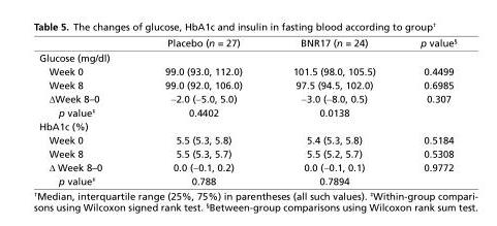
<table><thead><tr><td></td><td>Placebo (n = 27)</td><td>BNR17 (n = 24)</td><td>p value<sup>§</sup></td></tr></thead><tbody><tr><td colspan="4">Glucose (mg/dl)</td></tr><tr><td>Week 0</td><td>99.0 (93.0, 112.0)</td><td>101.5 (98.0, 105.5)</td><td>0.4499</td></tr><tr><td>Week 8</td><td>99.0 (92.0, 106.0)</td><td>97.5 (94.5, 102.0)</td><td>0.6985</td></tr><tr><td>ΔWeek 8–0</td><td>−2.0 (−5.0, 5.0)</td><td>−3.0 (−8.0, 0.5)</td><td>0.307</td></tr><tr><td>p value<sup>‡</sup></td><td>0.4402</td><td>0.0138</td><td></td></tr><tr><td colspan="4">HbA1c (%)</td></tr><tr><td>Week 0</td><td>5.5 (5.3, 5.8)</td><td>5.4 (5.3, 5.8)</td><td>0.5184</td></tr><tr><td>Week 8</td><td>5.5 (5.3, 5.7)</td><td>5.5 (5.2, 5.7)</td><td>0.5308</td></tr><tr><td>Δ Week 8–0</td><td>0.0 (−0.1, 0.2)</td><td>0.0 (−0.1, 0.1)</td><td>0.9772</td></tr><tr><td>p value<sup>‡</sup></td><td>0.788</td><td>0.7894</td><td></td></tr></tbody></table>